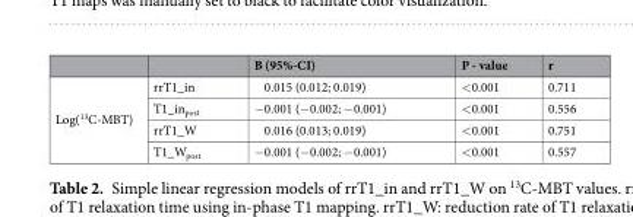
<table><thead><tr><td></td><td></td><td>B (95%-CI)</td><td>P - value</td><td>r</td></tr></thead><tbody><tr><td rowspan="4">Log(<sup>13</sup>C-MBT)</td><td>rrT1_in</td><td>0.015 (0.012; 0.019)</td><td>&lt;0.001</td><td>0.711</td></tr><tr><td>T1_in<sub>post</sub></td><td>−0.001 (−0.002; −0.001)</td><td>&lt;0.001</td><td>0.556</td></tr><tr><td>rrT1_W</td><td>0.016 (0.013; 0.019)</td><td>&lt;0.001</td><td>0.751</td></tr><tr><td>T1_W<sub>post</sub></td><td>−0.001 (−0.002; −0.001)</td><td>&lt;0.001</td><td>0.557</td></tr></tbody></table>